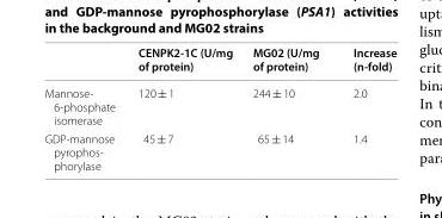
<table><thead><tr><td></td><td>CENPK2-1C (U/mg of protein)</td><td>MG02 (U/mg of protein)</td><td>Increase (n-fold)</td></tr></thead><tbody><tr><td>Mannose- 6-phosphate isomerase</td><td>120 ± 1</td><td>244 ± 10</td><td>2.0</td></tr><tr><td>GDP-mannose pyrophos- phorylase</td><td>45 ± 7</td><td>65 ± 14</td><td>1.4</td></tr></tbody></table>